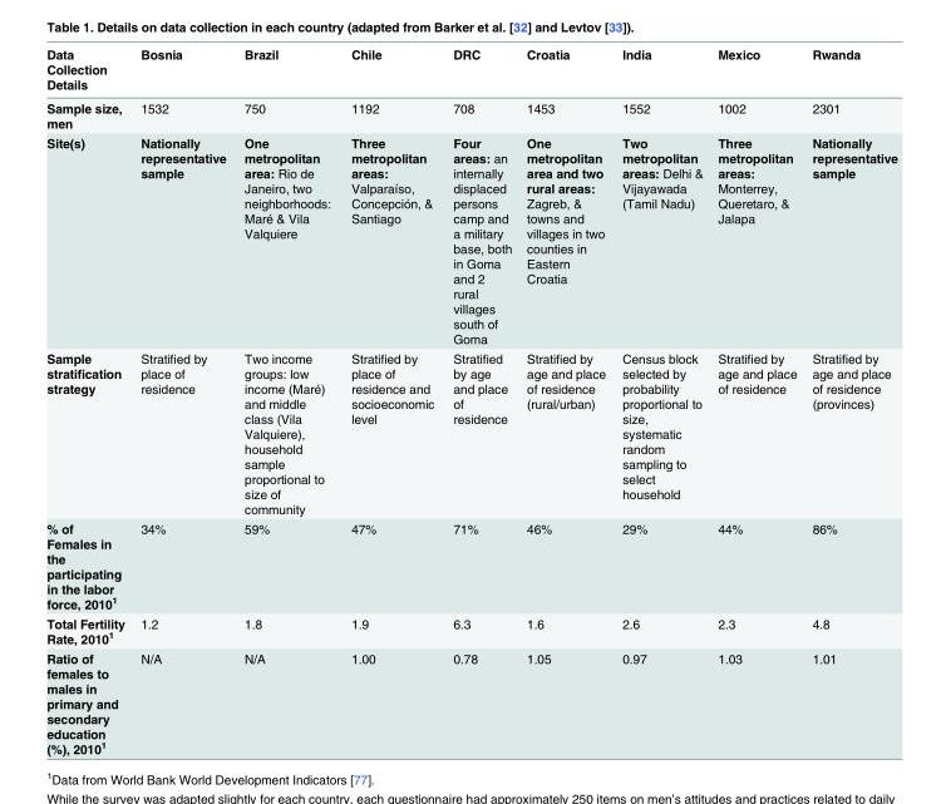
<table><thead><tr><td>Data Collection Details</td><td>Bosnia</td><td>Brazil</td><td>Chile</td><td>DRC</td><td>Croatia</td><td>India</td><td>Mexico</td><td>Rwanda</td></tr></thead><tbody><tr><td>Sample size, men</td><td>1532</td><td>750</td><td>1192</td><td>708</td><td>1453</td><td>1552</td><td>1002</td><td>2301</td></tr><tr><td>Site(s)</td><td>Nationally representative sample</td><td>One metropolitan area: Rio de Janeiro, two neighborhoods: Maré &amp; Vila Valquiere</td><td>Three metropolitan areas: Valparaíso, Concepción, &amp; Santiago</td><td>Four areas: an internally displaced persons camp and a military base, both in Goma and 2 rural villages south of Goma</td><td>One metropolitan area and two rural areas: Zagreb, &amp; towns and villages in two counties in Eastern Croatia</td><td>Two metropolitan areas: Delhi &amp; Vijayawada (Tamil Nadu)</td><td>Three metropolitan areas: Monterrey, Queretaro, &amp; Jalapa</td><td>Nationally representative sample</td></tr><tr><td>Sample stratification strategy</td><td>Stratified by place of residence</td><td>Two income groups: low income (Maré) and middle class (Vila Valquiere), household sample proportional to size of community</td><td>Stratified by place of residence and socioeconomic level</td><td>Stratified by age and place of residence</td><td>Stratified by age and place of residence (rural/urban)</td><td>Census block selected by probability proportional to size, systematic random sampling to select household</td><td>Stratified by age and place of residence</td><td>Stratified by age and place of residence (provinces)</td></tr><tr><td>% of Females in the participating in the labor force, 2010<sup>1</sup></td><td>34%</td><td>59%</td><td>47%</td><td>71%</td><td>46%</td><td>29%</td><td>44%</td><td>86%</td></tr><tr><td>Total Fertility Rate, 2010<sup>1</sup></td><td>1.2</td><td>1.8</td><td>1.9</td><td>6.3</td><td>1.6</td><td>2.6</td><td>2.3</td><td>4.8</td></tr><tr><td>Ratio of females to males in primary and secondary education (%), 2010<sup>1</sup></td><td>N/A</td><td>N/A</td><td>1.00</td><td>0.78</td><td>1.05</td><td>0.97</td><td>1.03</td><td>1.01</td></tr></tbody></table>